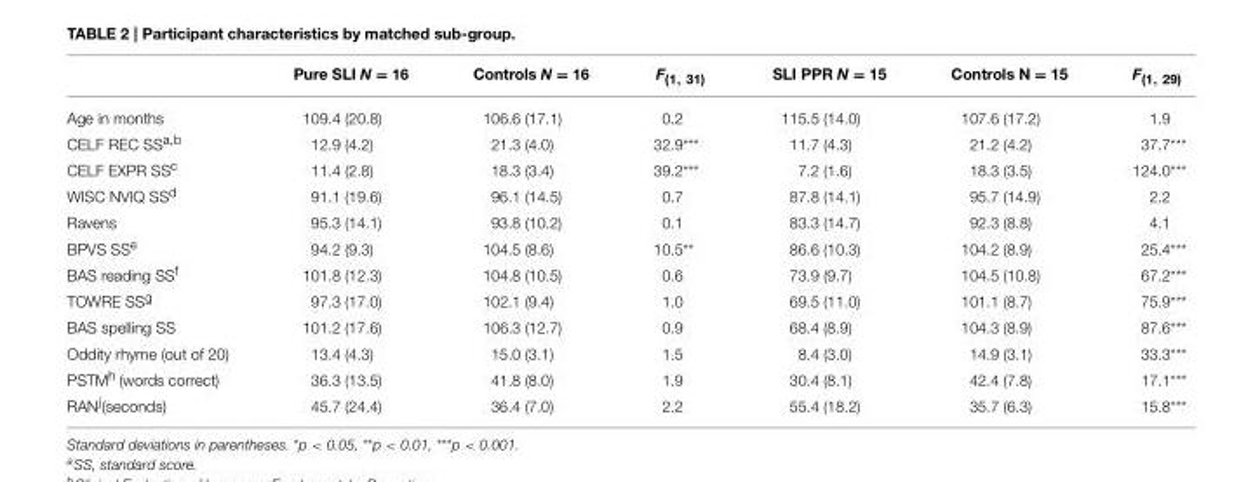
<table><thead><tr><td></td><td>Pure SLI N = 16</td><td>Controls N = 16</td><td>F<sub>(1, 31)</sub></td><td>SLI PPR N = 15</td><td>Controls N = 15</td><td>F<sub>(1, 29)</sub></td></tr></thead><tbody><tr><td>Age in months</td><td>109.4 (20.8)</td><td>106.6 (17.1)</td><td>0.2</td><td>115.5 (14.0)</td><td>107.6 (17.2)</td><td>1.9</td></tr><tr><td>CELF REC SS<sup>a,b</sup></td><td>12.9 (4.2)</td><td>21.3 (4.0)</td><td>32.9***</td><td>11.7 (4.3)</td><td>21.2 (4.2)</td><td>37.7***</td></tr><tr><td>CELF EXPR SS<sup>c</sup></td><td>11.4 (2.8)</td><td>18.3 (3.4)</td><td>39.2***</td><td>7.2 (1.6)</td><td>18.3 (3.5)</td><td>124.0***</td></tr><tr><td>WISC NVIQ SS<sup>d</sup></td><td>91.1 (19.6)</td><td>96.1 (14.5)</td><td>0.7</td><td>87.8 (14.1)</td><td>95.7 (14.9)</td><td>2.2</td></tr><tr><td>Ravens</td><td>95.3 (14.1)</td><td>93.8 (10.2)</td><td>0.1</td><td>83.3 (14.7)</td><td>92.3 (8.8)</td><td>4.1</td></tr><tr><td>BPVS SS<sup>e</sup></td><td>94.2 (9.3)</td><td>104.5 (8.6)</td><td>10.5**</td><td>86.6 (10.3)</td><td>104.2 (8.9)</td><td>25.4***</td></tr><tr><td>BAS reading SS<sup>f</sup></td><td>101.8 (12.3)</td><td>104.8 (10.5)</td><td>0.6</td><td>73.9 (9.7)</td><td>104.5 (10.8)</td><td>67.2***</td></tr><tr><td>TOWRE SS<sup>g</sup></td><td>97.3 (17.0)</td><td>102.1 (9.4)</td><td>1.0</td><td>69.5 (11.0)</td><td>101.1 (8.7)</td><td>75.9***</td></tr><tr><td>BAS spelling SS</td><td>101.2 (17.6)</td><td>106.3 (12.7)</td><td>0.9</td><td>68.4 (8.9)</td><td>104.3 (8.9)</td><td>87.6***</td></tr><tr><td>Oddity rhyme (out of 20)</td><td>13.4 (4.3)</td><td>15.0 (3.1)</td><td>1.5</td><td>8.4 (3.0)</td><td>14.9 (3.1)</td><td>33.3***</td></tr><tr><td>PSTM<sup>h</sup> (words correct)</td><td>36.3 (13.5)</td><td>41.8 (8.0)</td><td>1.9</td><td>30.4 (8.1)</td><td>42.4 (7.8)</td><td>17.1***</td></tr><tr><td>RAN<sup>j</sup>(seconds)</td><td>45.7 (24.4)</td><td>36.4 (7.0)</td><td>2.2</td><td>55.4 (18.2)</td><td>35.7 (6.3)</td><td>15.8***</td></tr></tbody></table>